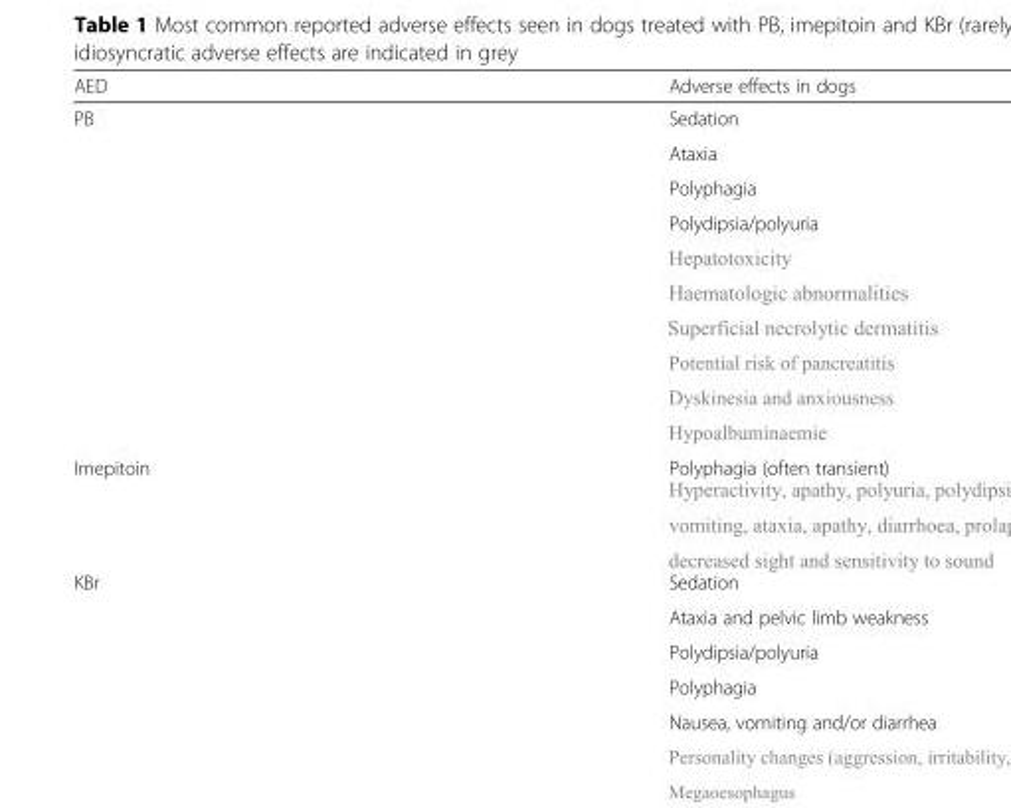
<table><thead><tr><td>AED</td><td>Adverse effects in dogs</td></tr></thead><tbody><tr><td rowspan="4">PB</td><td>Sedation</td></tr><tr><td>Ataxia</td></tr><tr><td>Polyphagia</td></tr><tr><td>Polydipsia/polyuria</td></tr><tr><td>Imepitoin</td><td>Polyphagia (often transient)</td></tr><tr><td rowspan="5">KBr</td><td>Sedation</td></tr><tr><td>Ataxia and pelvic limb weakness</td></tr><tr><td>Polydipsia/polyuria</td></tr><tr><td>Polyphagia</td></tr><tr><td>Nausea, vomiting and/or diarrhea</td></tr></tbody></table>